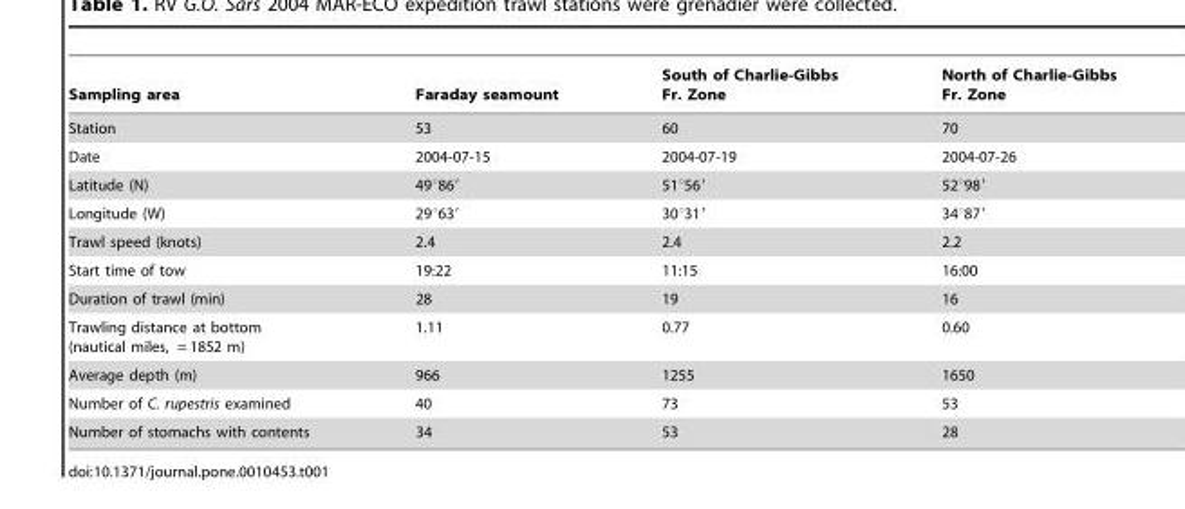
<table><thead><tr><td>Sampling area</td><td>Faraday seamount</td><td>South of Charlie-Gibbs Fr. Zone</td><td>North of Charlie-Gibbs Fr. Zone</td></tr></thead><tbody><tr><td>Station</td><td>53</td><td>60</td><td>70</td></tr><tr><td>Date</td><td>2004-07-15</td><td>2004-07-19</td><td>2004-07-26</td></tr><tr><td>Latitude (N)</td><td>49°86′</td><td>51°56′</td><td>52°98′</td></tr><tr><td>Longitude (W)</td><td>29°63′</td><td>30°31′</td><td>34°87′</td></tr><tr><td>Trawl speed (knots)</td><td>2.4</td><td>2.4</td><td>2.2</td></tr><tr><td>Start time of tow</td><td>19:22</td><td>11:15</td><td>16:00</td></tr><tr><td>Duration of trawl (min)</td><td>28</td><td>19</td><td>16</td></tr><tr><td>Trawling distance at bottom (nautical miles, = 1852 m)</td><td>1.11</td><td>0.77</td><td>0.60</td></tr><tr><td>Average depth (m)</td><td>966</td><td>1255</td><td>1650</td></tr><tr><td>Number of C. rupestris examined</td><td>40</td><td>73</td><td>53</td></tr><tr><td>Number of stomachs with contents</td><td>34</td><td>53</td><td>28</td></tr></tbody></table>